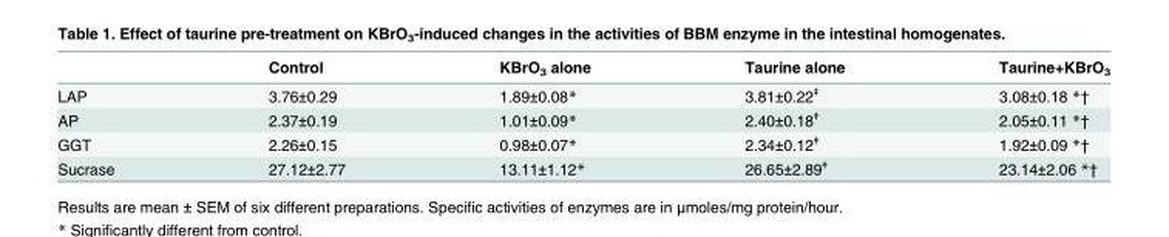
<table><thead><tr><td></td><td>Control</td><td>KBrO<sub>3</sub> alone</td><td>Taurine alone</td><td>Taurine+KBrO<sub>3</sub></td></tr></thead><tbody><tr><td>LAP</td><td>3.76±0.29</td><td>1.89±0.08*</td><td>3.81±0.22<sup>ǂ</sup></td><td>3.08±0.18 *†</td></tr><tr><td>AP</td><td>2.37±0.19</td><td>1.01±0.09*</td><td>2.40±0.18<sup>ǂ</sup></td><td>2.05±0.11 *†</td></tr><tr><td>GGT</td><td>2.26±0.15</td><td>0.98±0.07*</td><td>2.34±0.12<sup>ǂ</sup></td><td>1.92±0.09 *†</td></tr><tr><td>Sucrase</td><td>27.12±2.77</td><td>13.11±1.12*</td><td>26.65±2.89<sup>ǂ</sup></td><td>23.14±2.06 *†</td></tr></tbody></table>